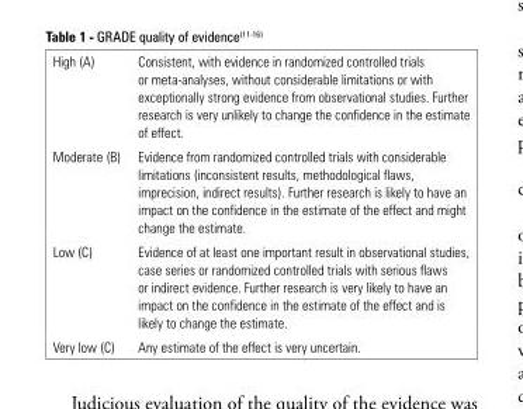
<table><tbody><tr><td>High (A)</td><td>Consistent, with evidence in randomized controlled trials or meta-analyses, without considerable limitations or with exceptionally strong evidence from observational studies. Further research is very unlikely to change the confidence in the estimate of effect.</td></tr><tr><td>Moderate (B)</td><td>Evidence from randomized controlled trials with considerable limitations (inconsistent results, methodological flaws, imprecision, indirect results). Further research is likely to have an impact on the confidence in the estimate of the effect and might change the estimate.</td></tr><tr><td>Low (C)</td><td>Evidence of at least one important result in observational studies, case series or randomized controlled trials with serious flaws or indirect evidence. Further research is very likely to have an impact on the confidence in the estimate of the effect and is likely to change the estimate.</td></tr><tr><td>Very low (C)</td><td>Any estimate of the effect is very uncertain.</td></tr></tbody></table>